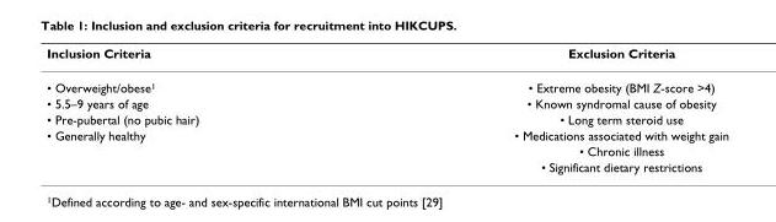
<table><thead><tr><td>Inclusion Criteria</td><td>Exclusion Criteria</td></tr></thead><tbody><tr><td>• Overweight/obese<sup>1</sup></td><td>• Extreme obesity (BMI Z-score &gt;4)</td></tr><tr><td>• 5.5–9 years of age</td><td>• Known syndromal cause of obesity</td></tr><tr><td>• Pre-pubertal (no pubic hair)</td><td>• Long term steroid use</td></tr><tr><td rowspan="3">• Generally healthy</td><td>• Medications associated with weight gain</td></tr><tr><td>• Chronic illness</td></tr><tr><td>• Significant dietary restrictions</td></tr></tbody></table>